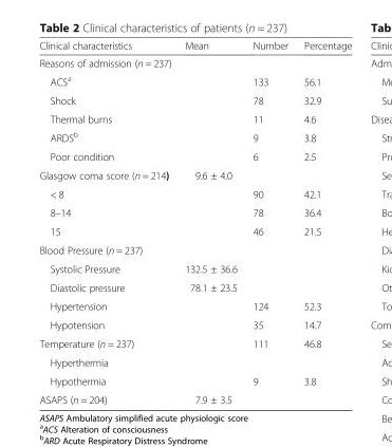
<table><thead><tr><td>Clinical characteristics</td><td>Mean</td><td>Number</td><td>Percentage</td></tr></thead><tbody><tr><td colspan="4">Reasons of admission (n = 237)</td></tr><tr><td>ACS<sup>a</sup></td><td></td><td>133</td><td>56.1</td></tr><tr><td>Shock</td><td></td><td>78</td><td>32.9</td></tr><tr><td>Thermal burns</td><td></td><td>11</td><td>4.6</td></tr><tr><td>ARDS<sup>b</sup></td><td></td><td>9</td><td>3.8</td></tr><tr><td>Poor condition</td><td></td><td>6</td><td>2.5</td></tr><tr><td>Glasgow coma score (n = 214)</td><td>9.6 ± 4.0</td><td></td><td></td></tr><tr><td>&lt; 8</td><td></td><td>90</td><td>42.1</td></tr><tr><td>8–14</td><td></td><td>78</td><td>36.4</td></tr><tr><td>15</td><td></td><td>46</td><td>21.5</td></tr><tr><td colspan="4">Blood Pressure (n = 237)</td></tr><tr><td>Systolic Pressure</td><td>132.5 ± 36.6</td><td></td><td></td></tr><tr><td>Diastolic pressure</td><td>78.1 ± 23.5</td><td></td><td></td></tr><tr><td>Hypertension</td><td></td><td>124</td><td>52.3</td></tr><tr><td>Hypotension</td><td></td><td>35</td><td>14.7</td></tr><tr><td>Temperature (n = 237)</td><td></td><td>111</td><td>46.8</td></tr><tr><td colspan="4">Hyperthermia</td></tr><tr><td>Hypothermia</td><td></td><td>9</td><td>3.8</td></tr><tr><td>ASAPS (n = 204)</td><td>7.9 ± 3.5</td><td></td><td></td></tr></tbody></table>